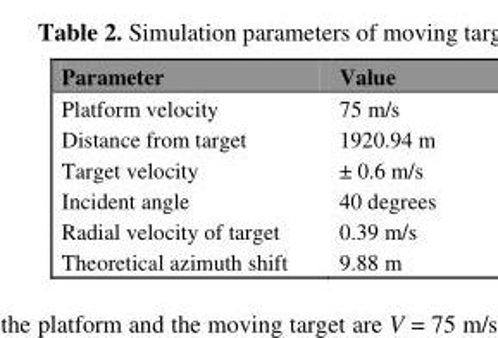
<table><thead><tr><td>Parameter</td><td>Value</td></tr></thead><tbody><tr><td>Platform velocity</td><td>75 m/s</td></tr><tr><td>Distance from target</td><td>1920.94 m</td></tr><tr><td>Target velocity</td><td>± 0.6 m/s</td></tr><tr><td>Incident angle</td><td>40 degrees</td></tr><tr><td>Radial velocity of target</td><td>0.39 m/s</td></tr><tr><td>Theoretical azimuth shift</td><td>9.88 m</td></tr></tbody></table>